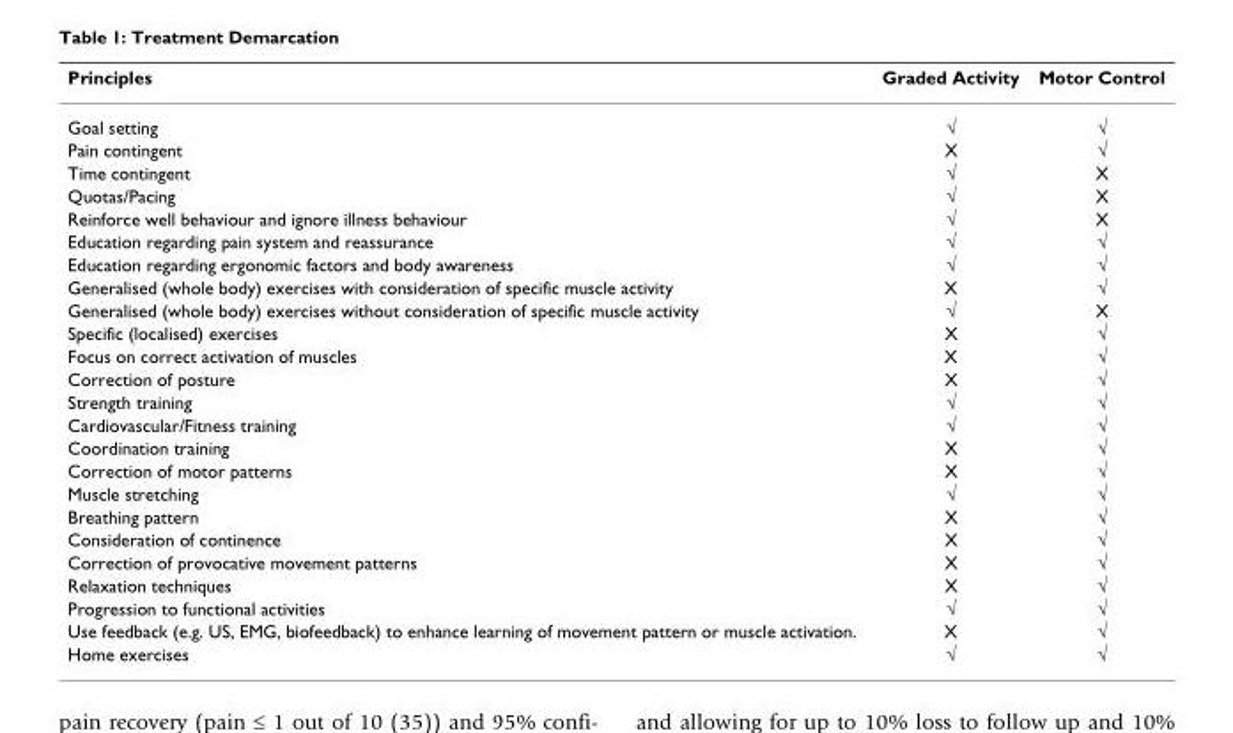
<table><thead><tr><td>Principles</td><td>Graded Activity</td><td>Motor Control</td></tr></thead><tbody><tr><td>Goal setting</td><td>√</td><td>√</td></tr><tr><td>Pain contingent</td><td>X</td><td>√</td></tr><tr><td>Time contingent</td><td>√</td><td>X</td></tr><tr><td>Quotas/Pacing</td><td>√</td><td>X</td></tr><tr><td>Reinforce well behaviour and ignore illness behaviour</td><td>√</td><td>X</td></tr><tr><td>Education regarding pain system and reassurance</td><td>√</td><td>√</td></tr><tr><td>Education regarding ergonomic factors and body awareness</td><td>√</td><td>√</td></tr><tr><td>Generalised (whole body) exercises with consideration of specific muscle activity</td><td>X</td><td>√</td></tr><tr><td>Generalised (whole body) exercises without consideration of specific muscle activity</td><td>√</td><td>X</td></tr><tr><td>Specific (localised) exercises</td><td>X</td><td>√</td></tr><tr><td>Focus on correct activation of muscles</td><td>X</td><td>√</td></tr><tr><td>Correction of posture</td><td>X</td><td>√</td></tr><tr><td>Strength training</td><td>√</td><td>√</td></tr><tr><td>Cardiovascular/Fitness training</td><td>√</td><td>√</td></tr><tr><td>Coordination training</td><td>X</td><td>√</td></tr><tr><td>Correction of motor patterns</td><td>X</td><td>√</td></tr><tr><td>Muscle stretching</td><td>√</td><td>√</td></tr><tr><td>Breathing pattern</td><td>X</td><td>√</td></tr><tr><td>Consideration of continence</td><td>X</td><td>√</td></tr><tr><td>Correction of provocative movement patterns</td><td>X</td><td>√</td></tr><tr><td>Relaxation techniques</td><td>X</td><td>√</td></tr><tr><td>Progression to functional activities</td><td>√</td><td>√</td></tr><tr><td>Use feedback (e.g. US, EMG, biofeedback) to enhance learning of movement pattern or muscle activation.</td><td>X</td><td>√</td></tr><tr><td>Home exercises</td><td>√</td><td>√</td></tr></tbody></table>